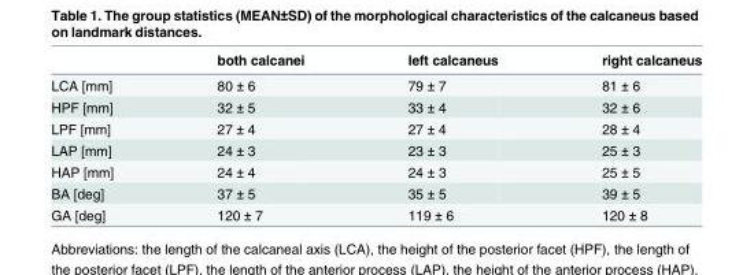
<table><thead><tr><td></td><td>both calcanei</td><td>left calcaneus</td><td>right calcaneus</td></tr></thead><tbody><tr><td>LCA [mm]</td><td>80 ± 6</td><td>79 ± 7</td><td>81 ± 6</td></tr><tr><td>HPF [mm]</td><td>32 ± 5</td><td>33 ± 4</td><td>32 ± 6</td></tr><tr><td>LPF [mm]</td><td>27 ± 4</td><td>27 ± 4</td><td>28 ± 4</td></tr><tr><td>LAP [mm]</td><td>24 ± 3</td><td>23 ± 3</td><td>25 ± 3</td></tr><tr><td>HAP [mm]</td><td>24 ± 4</td><td>24 ± 3</td><td>25 ± 5</td></tr><tr><td>BA [deg]</td><td>37 ± 5</td><td>35 ± 5</td><td>39 ± 5</td></tr><tr><td>GA [deg]</td><td>120 ± 7</td><td>119 ± 6</td><td>120 ± 8</td></tr></tbody></table>